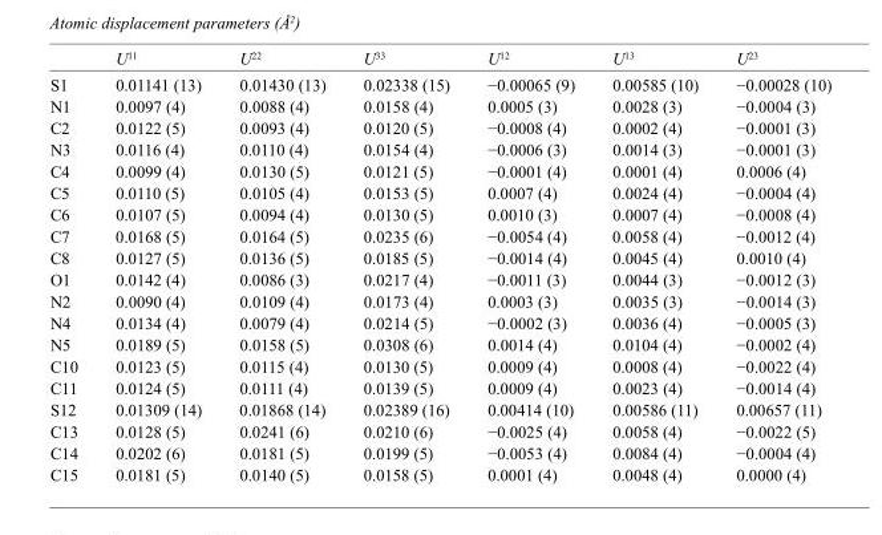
<table><thead><tr><td></td><td>U<sup>11</sup></td><td>U<sup>22</sup></td><td>U<sup>33</sup></td><td>U<sup>12</sup></td><td>U<sup>13</sup></td><td>U<sup>23</sup></td></tr></thead><tbody><tr><td>S1</td><td>0.01141 (13)</td><td>0.01430 (13)</td><td>0.02338 (15)</td><td>−0.00065 (9)</td><td>0.00585 (10)</td><td>−0.00028 (10)</td></tr><tr><td>N1</td><td>0.0097 (4)</td><td>0.0088 (4)</td><td>0.0158 (4)</td><td>0.0005 (3)</td><td>0.0028 (3)</td><td>−0.0004 (3)</td></tr><tr><td>C2</td><td>0.0122 (5)</td><td>0.0093 (4)</td><td>0.0120 (5)</td><td>−0.0008 (4)</td><td>0.0002 (4)</td><td>−0.0001 (3)</td></tr><tr><td>N3</td><td>0.0116 (4)</td><td>0.0110 (4)</td><td>0.0154 (4)</td><td>−0.0006 (3)</td><td>0.0014 (3)</td><td>−0.0001 (3)</td></tr><tr><td>C4</td><td>0.0099 (4)</td><td>0.0130 (5)</td><td>0.0121 (5)</td><td>−0.0001 (4)</td><td>0.0001 (4)</td><td>0.0006 (4)</td></tr><tr><td>C5</td><td>0.0110 (5)</td><td>0.0105 (4)</td><td>0.0153 (5)</td><td>0.0007 (4)</td><td>0.0024 (4)</td><td>−0.0004 (4)</td></tr><tr><td>C6</td><td>0.0107 (5)</td><td>0.0094 (4)</td><td>0.0130 (5)</td><td>0.0010 (3)</td><td>0.0007 (4)</td><td>−0.0008 (4)</td></tr><tr><td>C7</td><td>0.0168 (5)</td><td>0.0164 (5)</td><td>0.0235 (6)</td><td>−0.0054 (4)</td><td>0.0058 (4)</td><td>−0.0012 (4)</td></tr><tr><td>C8</td><td>0.0127 (5)</td><td>0.0136 (5)</td><td>0.0185 (5)</td><td>−0.0014 (4)</td><td>0.0045 (4)</td><td>0.0010 (4)</td></tr><tr><td>O1</td><td>0.0142 (4)</td><td>0.0086 (3)</td><td>0.0217 (4)</td><td>−0.0011 (3)</td><td>0.0044 (3)</td><td>−0.0012 (3)</td></tr><tr><td>N2</td><td>0.0090 (4)</td><td>0.0109 (4)</td><td>0.0173 (4)</td><td>0.0003 (3)</td><td>0.0035 (3)</td><td>−0.0014 (3)</td></tr><tr><td>N4</td><td>0.0134 (4)</td><td>0.0079 (4)</td><td>0.0214 (5)</td><td>−0.0002 (3)</td><td>0.0036 (4)</td><td>−0.0005 (3)</td></tr><tr><td>N5</td><td>0.0189 (5)</td><td>0.0158 (5)</td><td>0.0308 (6)</td><td>0.0014 (4)</td><td>0.0104 (4)</td><td>−0.0002 (4)</td></tr><tr><td>C10</td><td>0.0123 (5)</td><td>0.0115 (4)</td><td>0.0130 (5)</td><td>0.0009 (4)</td><td>0.0008 (4)</td><td>−0.0022 (4)</td></tr><tr><td>C11</td><td>0.0124 (5)</td><td>0.0111 (4)</td><td>0.0139 (5)</td><td>0.0009 (4)</td><td>0.0023 (4)</td><td>−0.0014 (4)</td></tr><tr><td>S12</td><td>0.01309 (14)</td><td>0.01868 (14)</td><td>0.02389 (16)</td><td>0.00414 (10)</td><td>0.00586 (11)</td><td>0.00657 (11)</td></tr><tr><td>C13</td><td>0.0128 (5)</td><td>0.0241 (6)</td><td>0.0210 (6)</td><td>−0.0025 (4)</td><td>0.0058 (4)</td><td>−0.0022 (5)</td></tr><tr><td>C14</td><td>0.0202 (6)</td><td>0.0181 (5)</td><td>0.0199 (5)</td><td>−0.0053 (4)</td><td>0.0084 (4)</td><td>−0.0004 (4)</td></tr><tr><td>C15</td><td>0.0181 (5)</td><td>0.0140 (5)</td><td>0.0158 (5)</td><td>0.0001 (4)</td><td>0.0048 (4)</td><td>0.0000 (4)</td></tr></tbody></table>